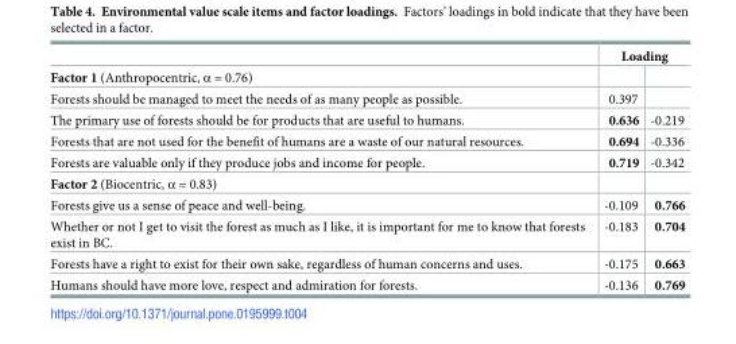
<table><thead><tr><td rowspan="2">Factor 1 (Anthropocentric, α = 0.76)</td><td colspan="2">Loading</td></tr><tr><td></td><td></td></tr></thead><tbody><tr><td>Forests should be managed to meet the needs of as many people as possible.</td><td>0.397</td><td></td></tr><tr><td>The primary use of forests should be for products that are useful to humans.</td><td>0.636</td><td>-0.219</td></tr><tr><td>Forests that are not used for the benefit of humans are a waste of our natural resources.</td><td>0.694</td><td>-0.336</td></tr><tr><td>Forests are valuable only if they produce jobs and income for people.</td><td>0.719</td><td>-0.342</td></tr><tr><td colspan="3">Factor 2 (Biocentric, α = 0.83)</td></tr><tr><td>Forests give us a sense of peace and well-being.</td><td>-0.109</td><td>0.766</td></tr><tr><td>Whether or not I get to visit the forest as much as I like, it is important for me to know that forests exist in BC.</td><td>-0.183</td><td>0.704</td></tr><tr><td>Forests have a right to exist for their own sake, regardless of human concerns and uses.</td><td>-0.175</td><td>0.663</td></tr><tr><td>Humans should have more love, respect and admiration for forests.</td><td>-0.136</td><td>0.769</td></tr></tbody></table>